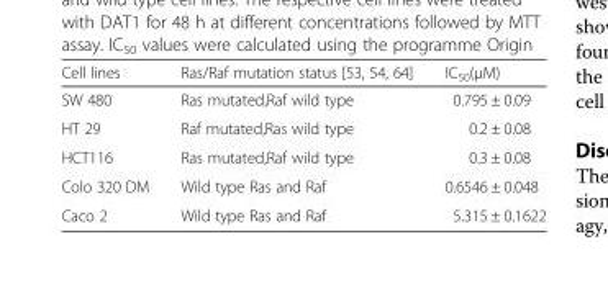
<table><thead><tr><td>Cell lines</td><td>Ras/Raf mutation status [53, 54, 64]</td><td>IC<sub>50</sub>(μM)</td></tr></thead><tbody><tr><td>SW 480</td><td>Ras mutated,Raf wild type</td><td>0.795 ± 0.09</td></tr><tr><td>HT 29</td><td>Raf mutated,Ras wild type</td><td>0.2 ± 0.08</td></tr><tr><td>HCT116</td><td>Ras mutated,Raf wild type</td><td>0.3 ± 0.08</td></tr><tr><td>Colo 320 DM</td><td>Wild type Ras and Raf</td><td>0.6546 ± 0.048</td></tr><tr><td>Caco 2</td><td>Wild type Ras and Raf</td><td>5.315 ± 0.1622</td></tr></tbody></table>